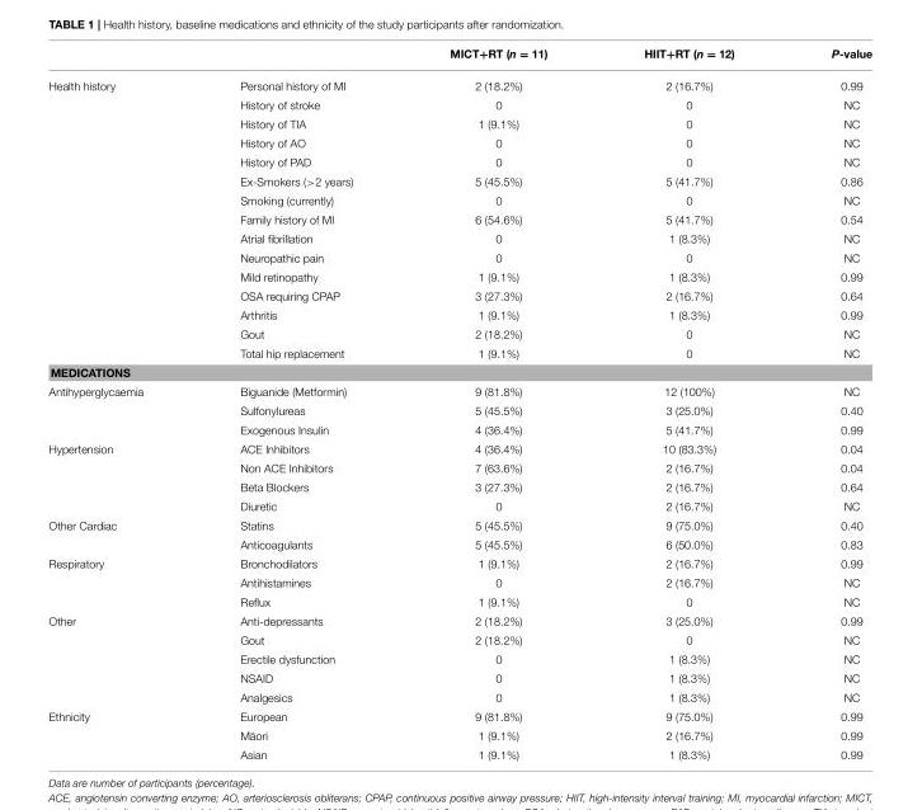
<table><thead><tr><td></td><td></td><td>MICT+RT (n = 11)</td><td>HIIT+RT (n = 12)</td><td>P-value</td></tr></thead><tbody><tr><td rowspan="15">Health history</td><td>Personal history of MI</td><td>2 (18.2%)</td><td>2 (16.7%)</td><td>0.99</td></tr><tr><td>History of stroke</td><td>0</td><td>0</td><td>NC</td></tr><tr><td>History of TIA</td><td>1 (9.1%)</td><td>0</td><td>NC</td></tr><tr><td>History of AO</td><td>0</td><td>0</td><td>NC</td></tr><tr><td>History of PAD</td><td>0</td><td>0</td><td>NC</td></tr><tr><td>Ex-Smokers (&gt;2 years)</td><td>5 (45.5%)</td><td>5 (41.7%)</td><td>0.86</td></tr><tr><td>Smoking (currently)</td><td>0</td><td>0</td><td>NC</td></tr><tr><td>Family history of MI</td><td>6 (54.6%)</td><td>5 (41.7%)</td><td>0.54</td></tr><tr><td>Atrial fibrillation</td><td>0</td><td>1 (8.3%)</td><td>NC</td></tr><tr><td>Neuropathic pain</td><td>0</td><td>0</td><td>NC</td></tr><tr><td>Mild retinopathy</td><td>1 (9.1%)</td><td>1 (8.3%)</td><td>0.99</td></tr><tr><td>OSA requiring CPAP</td><td>3 (27.3%)</td><td>2 (16.7%)</td><td>0.64</td></tr><tr><td>Arthritis</td><td>1 (9.1%)</td><td>1 (8.3%)</td><td>0.99</td></tr><tr><td>Gout</td><td>2 (18.2%)</td><td>0</td><td>NC</td></tr><tr><td>Total hip replacement</td><td>1 (9.1%)</td><td>0</td><td>NC</td></tr><tr><td colspan="5">MEDICATIONS</td></tr><tr><td rowspan="3">Antihyperglycaemia</td><td>Biguanide (Metformin)</td><td>9 (81.8%)</td><td>12 (100%)</td><td>NC</td></tr><tr><td>Sulfonylureas</td><td>5 (45.5%)</td><td>3 (25.0%)</td><td>0.40</td></tr><tr><td>Exogenous Insulin</td><td>4 (36.4%)</td><td>5 (41.7%)</td><td>0.99</td></tr><tr><td rowspan="4">Hypertension</td><td>ACE Inhibitors</td><td>4 (36.4%)</td><td>10 (83.3%)</td><td>0.04</td></tr><tr><td>Non ACE Inhibitors</td><td>7 (63.6%)</td><td>2 (16.7%)</td><td>0.04</td></tr><tr><td>Beta Blockers</td><td>3 (27.3%)</td><td>2 (16.7%)</td><td>0.64</td></tr><tr><td>Diuretic</td><td>0</td><td>2 (16.7%)</td><td>NC</td></tr><tr><td rowspan="2">Other Cardiac</td><td>Statins</td><td>5 (45.5%)</td><td>9 (75.0%)</td><td>0.40</td></tr><tr><td>Anticoagulants</td><td>5 (45.5%)</td><td>6 (50.0%)</td><td>0.83</td></tr><tr><td rowspan="3">Respiratory</td><td>Bronchodilators</td><td>1 (9.1%)</td><td>2 (16.7%)</td><td>0.99</td></tr><tr><td>Antihistamines</td><td>0</td><td>2 (16.7%)</td><td>NC</td></tr><tr><td>Reflux</td><td>1 (9.1%)</td><td>0</td><td>NC</td></tr><tr><td rowspan="5">Other</td><td>Anti-depressants</td><td>2 (18.2%)</td><td>3 (25.0%)</td><td>0.99</td></tr><tr><td>Gout</td><td>2 (18.2%)</td><td>0</td><td>NC</td></tr><tr><td>Erectile dysfunction</td><td>0</td><td>1 (8.3%)</td><td>NC</td></tr><tr><td>NSAID</td><td>0</td><td>1 (8.3%)</td><td>NC</td></tr><tr><td>Analgesics</td><td>0</td><td>1 (8.3%)</td><td>NC</td></tr><tr><td rowspan="3">Ethnicity</td><td>European</td><td>9 (81.8%)</td><td>9 (75.0%)</td><td>0.99</td></tr><tr><td>M ¯aori</td><td>1 (9.1%)</td><td>2 (16.7%)</td><td>0.99</td></tr><tr><td>Asian</td><td>1 (9.1%)</td><td>1 (8.3%)</td><td>0.99</td></tr></tbody></table>